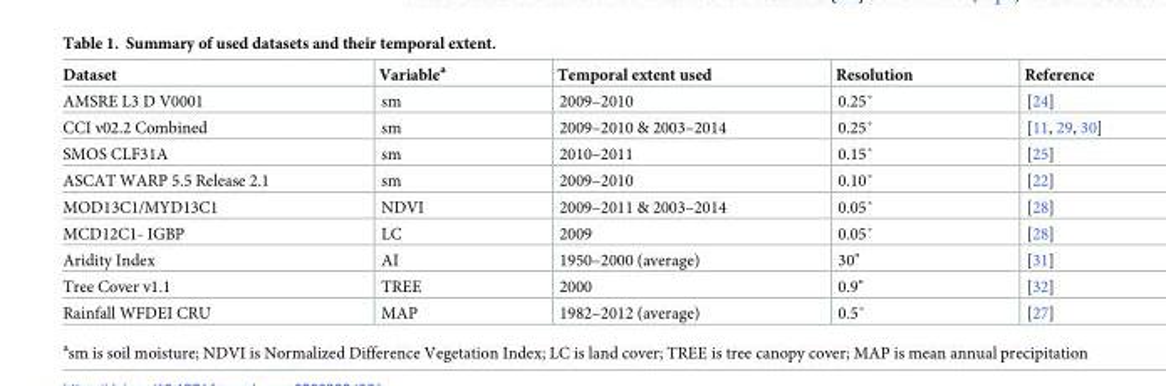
<table><thead><tr><td>Dataset</td><td>Variable<sup>a</sup></td><td>Temporal extent used</td><td>Resolution</td><td>Reference</td></tr></thead><tbody><tr><td>AMSRE L3 D V0001</td><td>sm</td><td>2009–2010</td><td>0.25˚</td><td>[24]</td></tr><tr><td>CCI v02.2 Combined</td><td>sm</td><td>2009–2010 &amp; 2003–2014</td><td>0.25˚</td><td>[11, 29, 30]</td></tr><tr><td>SMOS CLF31A</td><td>sm</td><td>2010–2011</td><td>0.15˚</td><td>[25]</td></tr><tr><td>ASCAT WARP 5.5 Release 2.1</td><td>sm</td><td>2009–2010</td><td>0.10˚</td><td>[22]</td></tr><tr><td>MOD13C1/MYD13C1</td><td>NDVI</td><td>2009–2011 &amp; 2003–2014</td><td>0.05˚</td><td>[28]</td></tr><tr><td>MCD12C1- IGBP</td><td>LC</td><td>2009</td><td>0.05˚</td><td>[28]</td></tr><tr><td>Aridity Index</td><td>AI</td><td>1950–2000 (average)</td><td>30&quot;</td><td>[31]</td></tr><tr><td>Tree Cover v1.1</td><td>TREE</td><td>2000</td><td>0.9&quot;</td><td>[32]</td></tr><tr><td>Rainfall WFDEI CRU</td><td>MAP</td><td>1982–2012 (average)</td><td>0.5˚</td><td>[27]</td></tr></tbody></table>